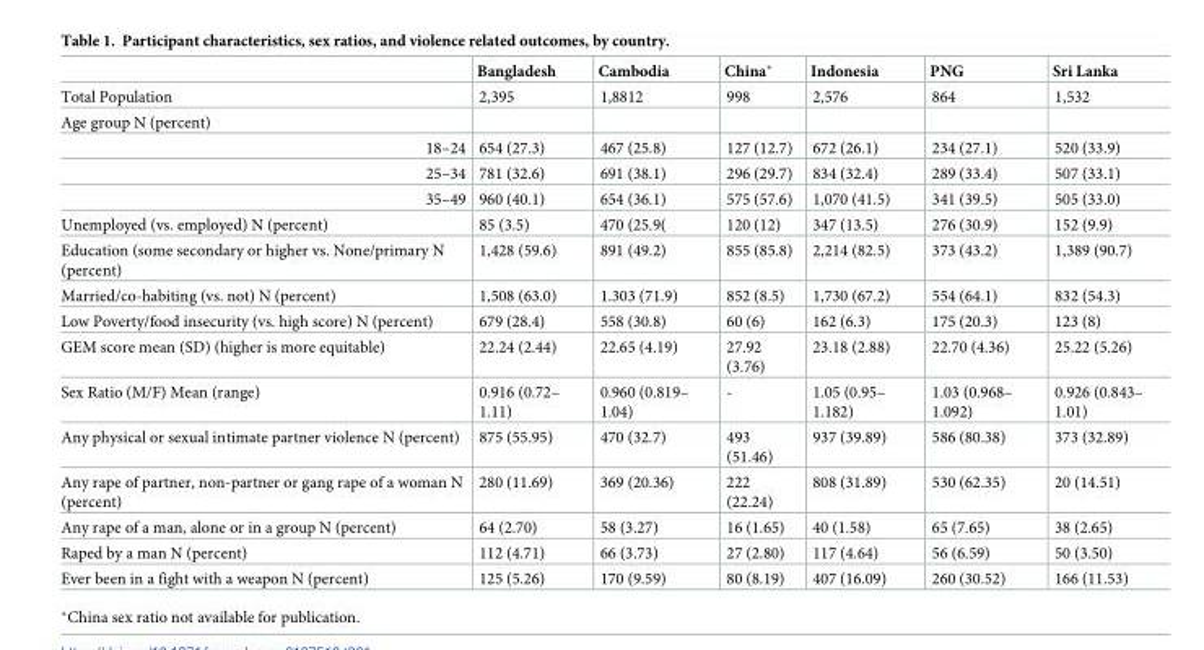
<table><thead><tr><td></td><td>Bangladesh</td><td>Cambodia</td><td>China*</td><td>Indonesia</td><td>PNG</td><td>Sri Lanka</td></tr></thead><tbody><tr><td>Total Population</td><td>2,395</td><td>1,8812</td><td>998</td><td>2,576</td><td>864</td><td>1,532</td></tr><tr><td colspan="7">Age group N (percent)</td></tr><tr><td>18–24</td><td>654 (27.3)</td><td>467 (25.8)</td><td>127 (12.7)</td><td>672 (26.1)</td><td>234 (27.1)</td><td>520 (33.9)</td></tr><tr><td>25–34</td><td>781 (32.6)</td><td>691 (38.1)</td><td>296 (29.7)</td><td>834 (32.4)</td><td>289 (33.4)</td><td>507 (33.1)</td></tr><tr><td>35–49</td><td>960 (40.1)</td><td>654 (36.1)</td><td>575 (57.6)</td><td>1,070 (41.5)</td><td>341 (39.5)</td><td>505 (33.0)</td></tr><tr><td>Unemployed (vs. employed) N (percent)</td><td>85 (3.5)</td><td>470 (25.9(</td><td>120 (12)</td><td>347 (13.5)</td><td>276 (30.9)</td><td>152 (9.9)</td></tr><tr><td>Education (some secondary or higher vs. None/primary N (percent)</td><td>1,428 (59.6)</td><td>891 (49.2)</td><td>855 (85.8)</td><td>2,214 (82.5)</td><td>373 (43.2)</td><td>1,389 (90.7)</td></tr><tr><td>Married/co-habiting (vs. not) N (percent)</td><td>1,508 (63.0)</td><td>1.303 (71.9)</td><td>852 (8.5)</td><td>1,730 (67.2)</td><td>554 (64.1)</td><td>832 (54.3)</td></tr><tr><td>Low Poverty/food insecurity (vs. high score) N (percent)</td><td>679 (28.4)</td><td>558 (30.8)</td><td>60 (6)</td><td>162 (6.3)</td><td>175 (20.3)</td><td>123 (8)</td></tr><tr><td>GEM score mean (SD) (higher is more equitable)</td><td>22.24 (2.44)</td><td>22.65 (4.19)</td><td>27.92 (3.76)</td><td>23.18 (2.88)</td><td>22.70 (4.36)</td><td>25.22 (5.26)</td></tr><tr><td>Sex Ratio (M/F) Mean (range)</td><td>0.916 (0.72– 1.11)</td><td>0.960 (0.819– 1.04)</td><td>-</td><td>1.05 (0.95– 1.182)</td><td>1.03 (0.968– 1.092)</td><td>0.926 (0.843– 1.01)</td></tr><tr><td>Any physical or sexual intimate partner violence N (percent)</td><td>875 (55.95)</td><td>470 (32.7)</td><td>493 (51.46)</td><td>937 (39.89)</td><td>586 (80.38)</td><td>373 (32.89)</td></tr><tr><td>Any rape of partner, non-partner or gang rape of a woman N (percent)</td><td>280 (11.69)</td><td>369 (20.36)</td><td>222 (22.24)</td><td>808 (31.89)</td><td>530 (62.35)</td><td>20 (14.51)</td></tr><tr><td>Any rape of a man, alone or in a group N (percent)</td><td>64 (2.70)</td><td>58 (3.27)</td><td>16 (1.65)</td><td>40 (1.58)</td><td>65 (7.65)</td><td>38 (2.65)</td></tr><tr><td>Raped by a man N (percent)</td><td>112 (4.71)</td><td>66 (3.73)</td><td>27 (2.80)</td><td>117 (4.64)</td><td>56 (6.59)</td><td>50 (3.50)</td></tr><tr><td>Ever been in a fight with a weapon N (percent)</td><td>125 (5.26)</td><td>170 (9.59)</td><td>80 (8.19)</td><td>407 (16.09)</td><td>260 (30.52)</td><td>166 (11.53)</td></tr></tbody></table>